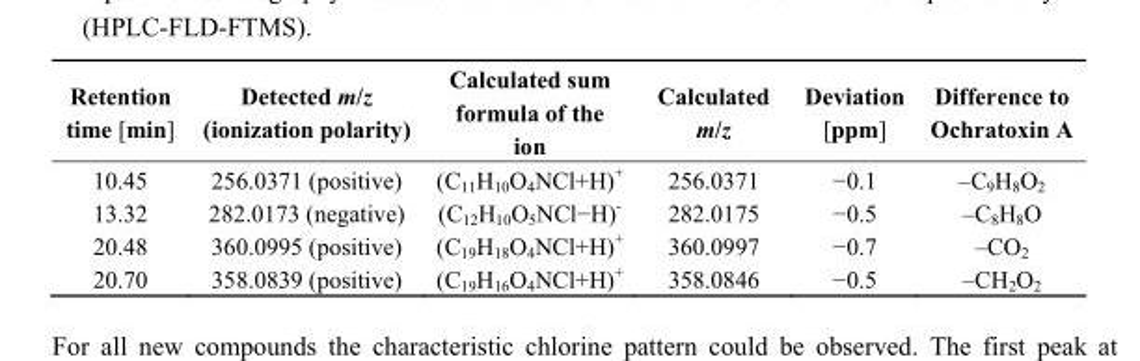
<table><thead><tr><td>Retention time [min]</td><td>Detected m/z (ionization polarity)</td><td>Calculated sum formula of the ion</td><td>Calculated m/z</td><td>Deviation [ppm]</td><td>Difference to Ochratoxin A</td></tr></thead><tbody><tr><td>10.45</td><td>256.0371 (positive)</td><td>(C<sub>11</sub>H<sub>10</sub>O<sub>4</sub>NCl+H)<sup>+</sup></td><td>256.0371</td><td>−0.1</td><td>–C<sub>9</sub>H<sub>8</sub>O<sub>2</sub></td></tr><tr><td>13.32</td><td>282.0173 (negative)</td><td>(C<sub>12</sub>H<sub>10</sub>O<sub>5</sub>NCl−H)<sup>-</sup></td><td>282.0175</td><td>−0.5</td><td>–C<sub>8</sub>H<sub>8</sub>O</td></tr><tr><td>20.48</td><td>360.0995 (positive)</td><td>(C<sub>19</sub>H<sub>18</sub>O<sub>4</sub>NCl+H)<sup>+</sup></td><td>360.0997</td><td>−0.7</td><td>–CO<sub>2</sub></td></tr><tr><td>20.70</td><td>358.0839 (positive)</td><td>(C<sub>19</sub>H<sub>16</sub>O<sub>4</sub>NCl+H)<sup>+</sup></td><td>358.0846</td><td>−0.5</td><td>–CH<sub>2</sub>O<sub>2</sub></td></tr></tbody></table>